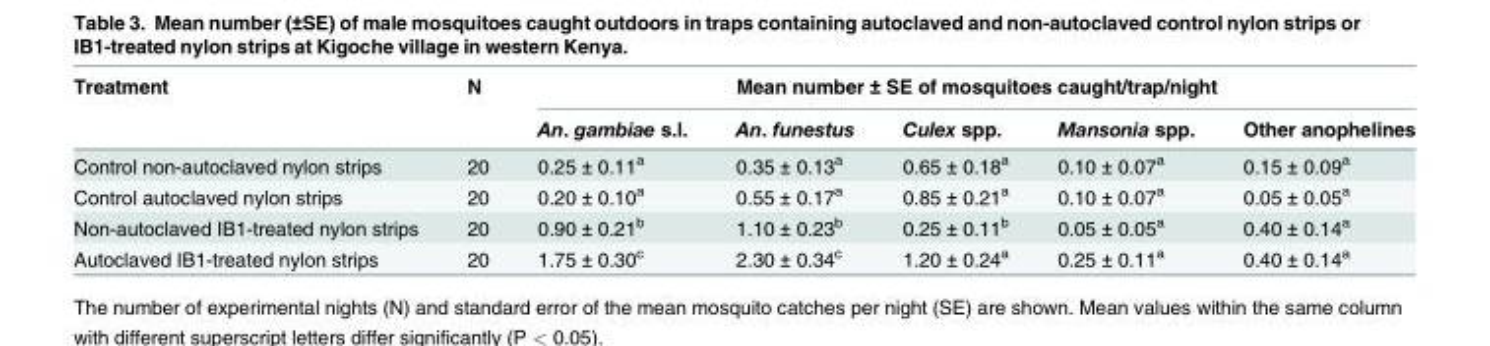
<table><thead><tr><td rowspan="2">Treatment</td><td rowspan="2">N</td><td colspan="5">Mean number ± SE of mosquitoes caught/trap/night</td></tr><tr><td>An. gambiae s.l.</td><td>An. funestus</td><td>Culex spp.</td><td>Mansonia spp.</td><td>Other anophelines</td></tr></thead><tbody><tr><td>Control non-autoclaved nylon strips</td><td>20</td><td>0.25 ± 0.11<sup>a</sup></td><td>0.35 ± 0.13<sup>a</sup></td><td>0.65 ± 0.18<sup>a</sup></td><td>0.10 ± 0.07<sup>a</sup></td><td>0.15 ± 0.09<sup>a</sup></td></tr><tr><td>Control autoclaved nylon strips</td><td>20</td><td>0.20 ± 0.10<sup>a</sup></td><td>0.55 ± 0.17<sup>a</sup></td><td>0.85 ± 0.21<sup>a</sup></td><td>0.10 ± 0.07<sup>a</sup></td><td>0.05 ± 0.05<sup>a</sup></td></tr><tr><td>Non-autoclaved IB1-treated nylon strips</td><td>20</td><td>0.90 ± 0.21<sup>b</sup></td><td>1.10 ± 0.23<sup>b</sup></td><td>0.25 ± 0.11<sup>b</sup></td><td>0.05 ± 0.05<sup>a</sup></td><td>0.40 ± 0.14<sup>a</sup></td></tr><tr><td>Autoclaved IB1-treated nylon strips</td><td>20</td><td>1.75 ± 0.30<sup>c</sup></td><td>2.30 ± 0.34<sup>c</sup></td><td>1.20 ± 0.24<sup>a</sup></td><td>0.25 ± 0.11<sup>a</sup></td><td>0.40 ± 0.14<sup>a</sup></td></tr></tbody></table>